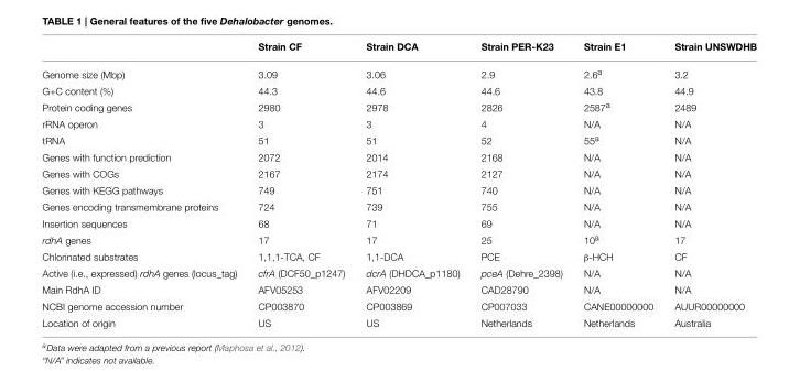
<table><thead><tr><td></td><td>Strain CF</td><td>Strain DCA</td><td>Strain PER-K23</td><td>Strain E1</td><td>Strain UNSWDHB</td></tr></thead><tbody><tr><td>Genome size (Mbp)</td><td>3.09</td><td>3.06</td><td>2.9</td><td>2.6<sup>a</sup></td><td>3.2</td></tr><tr><td>G+C content (%)</td><td>44.3</td><td>44.6</td><td>44.6</td><td>43.8</td><td>44.9</td></tr><tr><td>Protein coding genes</td><td>2980</td><td>2978</td><td>2826</td><td>2587<sup>a</sup></td><td>2489</td></tr><tr><td>rRNA operon</td><td>3</td><td>3</td><td>4</td><td>N/A</td><td>N/A</td></tr><tr><td>tRNA</td><td>51</td><td>51</td><td>52</td><td>55<sup>a</sup></td><td>N/A</td></tr><tr><td>Genes with function prediction</td><td>2072</td><td>2014</td><td>2168</td><td>N/A</td><td>N/A</td></tr><tr><td>Genes with COGs</td><td>2167</td><td>2174</td><td>2127</td><td>N/A</td><td>N/A</td></tr><tr><td>Genes with KEGG pathways</td><td>749</td><td>751</td><td>740</td><td>N/A</td><td>N/A</td></tr><tr><td>Genes encoding transmembrane proteins</td><td>724</td><td>739</td><td>755</td><td>N/A</td><td>N/A</td></tr><tr><td>Insertion sequences</td><td>68</td><td>71</td><td>69</td><td>N/A</td><td>N/A</td></tr><tr><td>rdhA genes</td><td>17</td><td>17</td><td>25</td><td>10<sup>a</sup></td><td>17</td></tr><tr><td>Chlorinated substrates</td><td>1,1,1-TCA, CF</td><td>1,1-DCA</td><td>PCE</td><td>β-HCH</td><td>CF</td></tr><tr><td>Active (i.e., expressed) rdhA genes (locus_tag)</td><td>cfrA (DCF50_p1247)</td><td>dcrA (DHDCA_p1180)</td><td>pceA (Dehre_2398)</td><td>N/A</td><td>N/A</td></tr><tr><td>Main RdhA ID</td><td>AFV05253</td><td>AFV02209</td><td>CAD28790</td><td>N/A</td><td>N/A</td></tr><tr><td>NCBI genome accession number</td><td>CP003870</td><td>CP003869</td><td>CP007033</td><td>CANE00000000</td><td>AUUR00000000</td></tr><tr><td>Location of origin</td><td>US</td><td>US</td><td>Netherlands</td><td>Netherlands</td><td>Australia</td></tr></tbody></table>